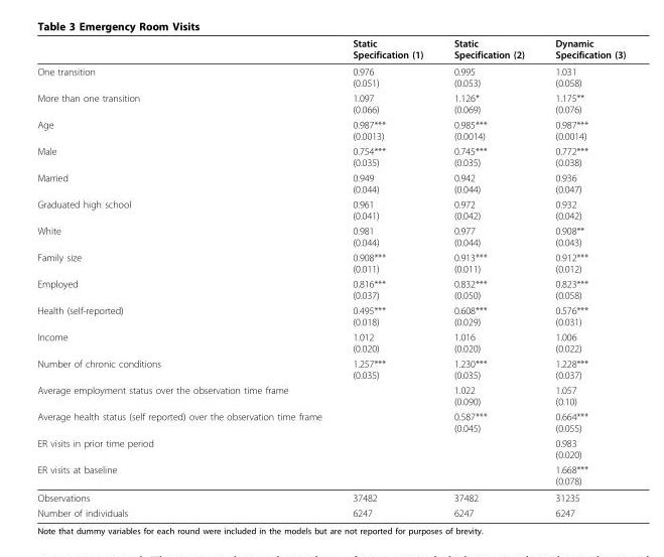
<table><thead><tr><td></td><td>Static Specification (1)</td><td>Static Specification (2)</td><td>Dynamic Specification (3)</td></tr></thead><tbody><tr><td>One transition</td><td>0.976 (0.051)</td><td>0.995 (0.053)</td><td>1.031 (0.058)</td></tr><tr><td>More than one transition</td><td>1.097 (0.066)</td><td>1.126* (0.069)</td><td>1.175** (0.076)</td></tr><tr><td>Age</td><td>0.987*** (0.0013)</td><td>0.985*** (0.0014)</td><td>0.987*** (0.0014)</td></tr><tr><td>Male</td><td>0.754*** (0.035)</td><td>0.745*** (0.035)</td><td>0.772*** (0.038)</td></tr><tr><td>Married</td><td>0.949 (0.044)</td><td>0.942 (0.044)</td><td>0.936 (0.047)</td></tr><tr><td>Graduated high school</td><td>0.961 (0.041)</td><td>0.972 (0.042)</td><td>0.932 (0.042)</td></tr><tr><td>White</td><td>0.981 (0.044)</td><td>0.977 (0.044)</td><td>0.908** (0.043)</td></tr><tr><td>Family size</td><td>0.908*** (0.011)</td><td>0.913*** (0.011)</td><td>0.912*** (0.012)</td></tr><tr><td>Employed</td><td>0.816*** (0.037)</td><td>0.832*** (0.050)</td><td>0.823*** (0.058)</td></tr><tr><td>Health (self-reported)</td><td>0.495*** (0.018)</td><td>0.608*** (0.029)</td><td>0.576*** (0.031)</td></tr><tr><td>Income</td><td>1.012 (0.020)</td><td>1.016 (0.020)</td><td>1.006 (0.022)</td></tr><tr><td>Number of chronic conditions</td><td>1.257*** (0.035)</td><td>1.230*** (0.035)</td><td>1.228*** (0.037)</td></tr><tr><td>Average employment status over the observation time frame</td><td></td><td>1.022 (0.090)</td><td>1.057 (0.10)</td></tr><tr><td>Average health status (self reported) over the observation time frame</td><td></td><td>0.587*** (0.045)</td><td>0.664*** (0.055)</td></tr><tr><td>ER visits in prior time period</td><td></td><td></td><td>0.983 (0.020)</td></tr><tr><td>ER visits at baseline</td><td></td><td></td><td>1.668*** (0.078)</td></tr><tr><td>Observations</td><td>37482</td><td>37482</td><td>31235</td></tr><tr><td>Number of individuals</td><td>6247</td><td>6247</td><td>6247</td></tr></tbody></table>